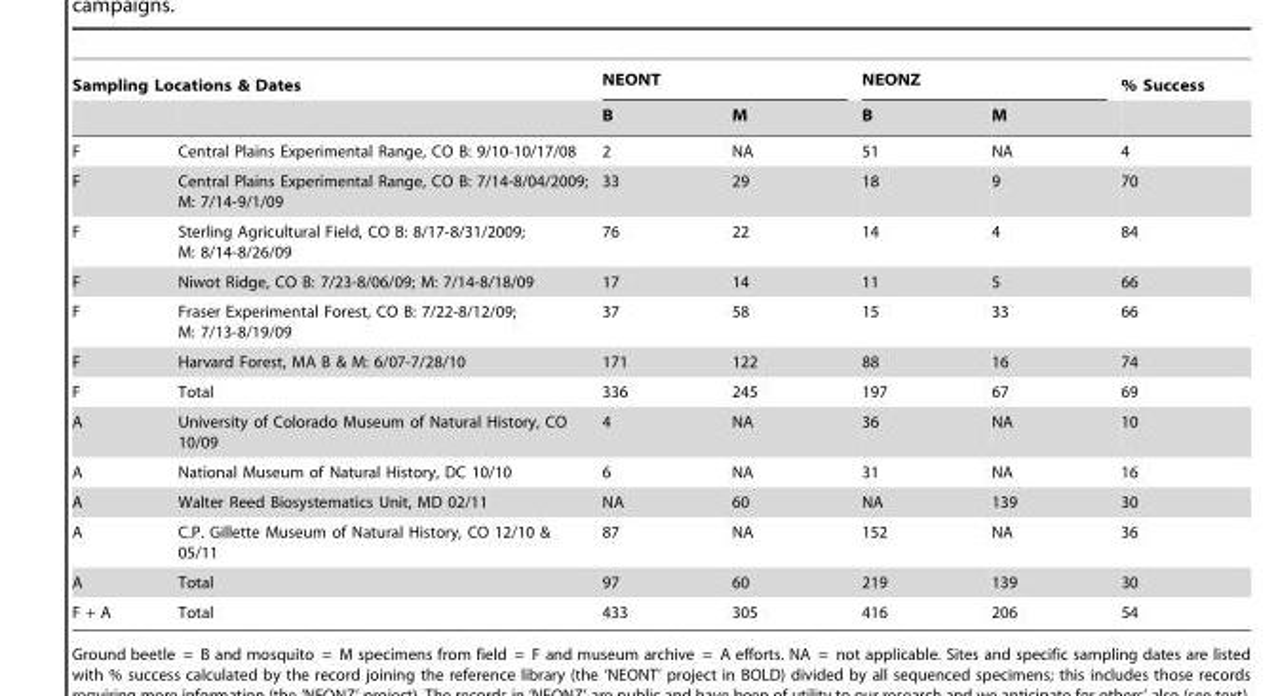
<table><thead><tr><td colspan="2">Sampling Locations &amp; Dates</td><td colspan="2">NEONT</td><td colspan="2">NEONZ</td><td rowspan="2">% Success</td></tr><tr><td></td><td></td><td>B</td><td>M</td><td>B</td><td>M</td></tr></thead><tbody><tr><td>F</td><td>Central Plains Experimental Range, CO B: 9/10-10/17/08</td><td>2</td><td>NA</td><td>51</td><td>NA</td><td>4</td></tr><tr><td>F</td><td>Central Plains Experimental Range, CO B: 7/14-8/04/2009; M: 7/14-9/1/09</td><td>33</td><td>29</td><td>18</td><td>9</td><td>70</td></tr><tr><td>F</td><td>Sterling Agricultural Field, CO B: 8/17-8/31/2009; M: 8/14-8/26/09</td><td>76</td><td>22</td><td>14</td><td>4</td><td>84</td></tr><tr><td>F</td><td>Niwot Ridge, CO B: 7/23-8/06/09; M: 7/14-8/18/09</td><td>17</td><td>14</td><td>11</td><td>5</td><td>66</td></tr><tr><td>F</td><td>Fraser Experimental Forest, CO B: 7/22-8/12/09; M: 7/13-8/19/09</td><td>37</td><td>58</td><td>15</td><td>33</td><td>66</td></tr><tr><td>F</td><td>Harvard Forest, MA B &amp; M: 6/07-7/28/10</td><td>171</td><td>122</td><td>88</td><td>16</td><td>74</td></tr><tr><td>F</td><td>Total</td><td>336</td><td>245</td><td>197</td><td>67</td><td>69</td></tr><tr><td>A</td><td>University of Colorado Museum of Natural History, CO 10/09</td><td>4</td><td>NA</td><td>36</td><td>NA</td><td>10</td></tr><tr><td>A</td><td>National Museum of Natural History, DC 10/10</td><td>6</td><td>NA</td><td>31</td><td>NA</td><td>16</td></tr><tr><td>A</td><td>Walter Reed Biosystematics Unit, MD 02/11</td><td>NA</td><td>60</td><td>NA</td><td>139</td><td>30</td></tr><tr><td>A</td><td>C.P. Gillette Museum of Natural History, CO 12/10 &amp; 05/11</td><td>87</td><td>NA</td><td>152</td><td>NA</td><td>36</td></tr><tr><td>A</td><td>Total</td><td>97</td><td>60</td><td>219</td><td>139</td><td>30</td></tr><tr><td>F + A</td><td>Total</td><td>433</td><td>305</td><td>416</td><td>206</td><td>54</td></tr></tbody></table>